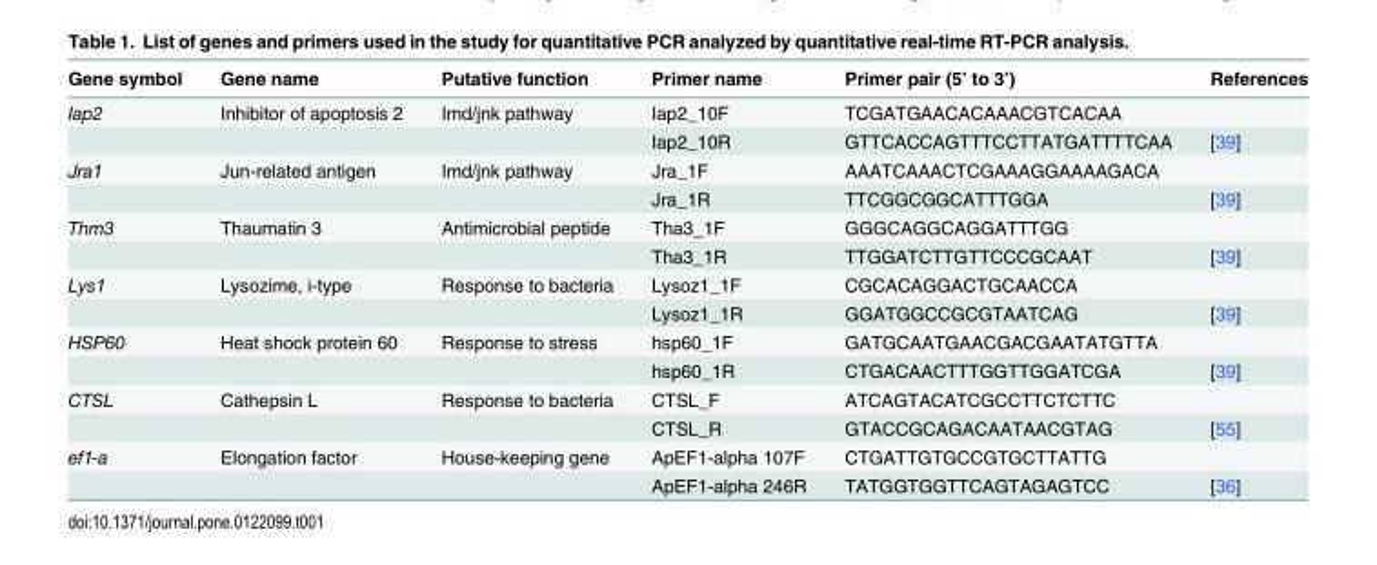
<table><thead><tr><td>Gene symbol</td><td>Gene name</td><td>Putative function</td><td>Primer name</td><td>Primer pair (5’ to 3’)</td><td>References</td></tr></thead><tbody><tr><td rowspan="2">Iap2</td><td>Inhibitor of apoptosis 2</td><td>Imd/jnk pathway</td><td>Iap2_10F</td><td>TCGATGAACACAAACGTCACAA</td><td></td></tr><tr><td></td><td></td><td>Iap2_10R</td><td>GTTCACCAGTTTCCTTATGATTTTCAA</td><td>[39]</td></tr><tr><td rowspan="2">Jra1</td><td>Jun-related antigen</td><td>Imd/jnk pathway</td><td>Jra_1F</td><td>AAATCAAACTCGAAAGGAAAAGACA</td><td></td></tr><tr><td></td><td></td><td>Jra_1R</td><td>TTCGGCGGCATTTGGA</td><td>[39]</td></tr><tr><td rowspan="2">Thm3</td><td>Thaumatin 3</td><td>Antimicrobial peptide</td><td>Tha3_1F</td><td>GGGCAGGCAGGATTTGG</td><td></td></tr><tr><td></td><td></td><td>Tha3_1R</td><td>TTGGATCTTGTTCCCGCAAT</td><td>[39]</td></tr><tr><td rowspan="2">Lys1</td><td>Lysozime, i-type</td><td>Response to bacteria</td><td>Lysoz1_1F</td><td>CGCACAGGACTGCAACCA</td><td></td></tr><tr><td></td><td></td><td>Lysoz1_1R</td><td>GGATGGCCGCGTAATCAG</td><td>[39]</td></tr><tr><td rowspan="2">HSP60</td><td>Heat shock protein 60</td><td>Response to stress</td><td>hsp60_1F</td><td>GATGCAATGAACGACGAATATGTTA</td><td></td></tr><tr><td></td><td></td><td>hsp60_1R</td><td>CTGACAACTTTGGTTGGATCGA</td><td>[39]</td></tr><tr><td rowspan="2">CTSL</td><td>Cathepsin L</td><td>Response to bacteria</td><td>CTSL_F</td><td>ATCAGTACATCGCCTTCTCTTC</td><td></td></tr><tr><td></td><td></td><td>CTSL_R</td><td>GTACCGCAGACAATAACGTAG</td><td>[55]</td></tr><tr><td rowspan="2">ef1-a</td><td>Elongation factor</td><td>House-keeping gene</td><td>ApEF1-alpha 107F</td><td>CTGATTGTGCCGTGCTTATTG</td><td></td></tr><tr><td></td><td></td><td>ApEF1-alpha 246R</td><td>TATGGTGGTTCAGTAGAGTCC</td><td>[36]</td></tr></tbody></table>